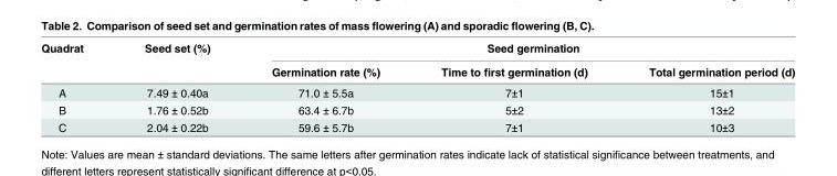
<table><thead><tr><td rowspan="2">Quadrat</td><td rowspan="2">Seed set (%)</td><td colspan="3">Seed germination</td></tr><tr><td>Germination rate (%)</td><td>Time to first germination (d)</td><td>Total germination period (d)</td></tr></thead><tbody><tr><td>A</td><td>7.49 ± 0.40a</td><td>71.0 ± 5.5a</td><td>7±1</td><td>15±1</td></tr><tr><td>B</td><td>1.76 ± 0.52b</td><td>63.4 ± 6.7b</td><td>5±2</td><td>13±2</td></tr><tr><td>C</td><td>2.04 ± 0.22b</td><td>59.6 ± 5.7b</td><td>7±1</td><td>10±3</td></tr></tbody></table>